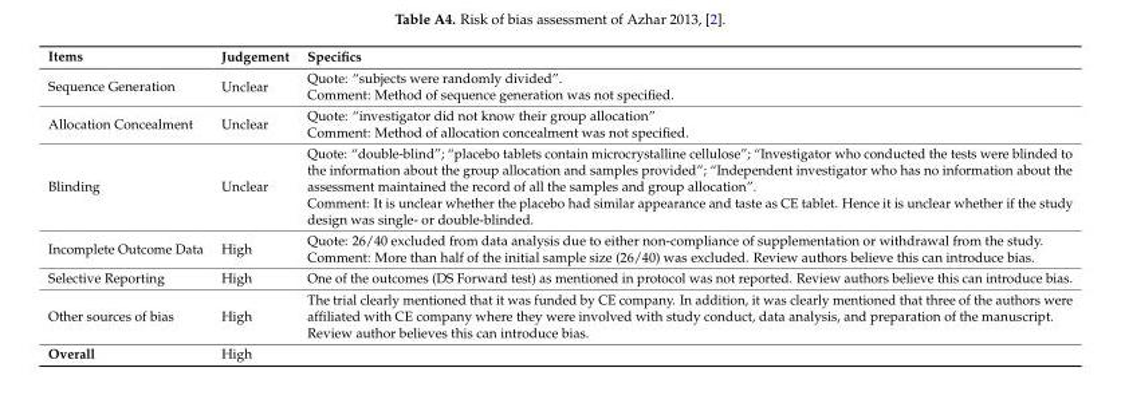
<table><thead><tr><td>Items</td><td>Judgement</td><td>Specifics</td></tr></thead><tbody><tr><td>Sequence Generation</td><td>Unclear</td><td>Quote: “subjects were randomly divided”. Comment: Method of sequence generation was not specified.</td></tr><tr><td>Allocation Concealment</td><td>Unclear</td><td>Quote: “investigator did not know their group allocation” Comment: Method of allocation concealment was not specified.</td></tr><tr><td>Blinding</td><td>Unclear</td><td>Quote: “double-blind”; “placebo tablets contain microcrystalline cellulose”; “Investigator who conducted the tests were blinded to the information about the group allocation and samples provided”; “Independent investigator who has no information about the assessment maintained the record of all the samples and group allocation”. Comment: It is unclear whether the placebo had similar appearance and taste as CE tablet. Hence it is unclear whether if the study design was single- or double-blinded.</td></tr><tr><td>Incomplete Outcome Data</td><td>High</td><td>Quote: 26/40 excluded from data analysis due to either non-compliance of supplementation or withdrawal from the study. Comment: More than half of the initial sample size (26/40) was excluded. Review authors believe this can introduce bias.</td></tr><tr><td>Selective Reporting</td><td>High</td><td>One of the outcomes (DS Forward test) as mentioned in protocol was not reported. Review authors believe this can introduce bias.</td></tr><tr><td>Other sources of bias</td><td>High</td><td>The trial clearly mentioned that it was funded by CE company. In addition, it was clearly mentioned that three of the authors were affiliated with CE company where they were involved with study conduct, data analysis, and preparation of the manuscript. Review author believes this can introduce bias.</td></tr><tr><td>Overall</td><td>High</td><td></td></tr></tbody></table>